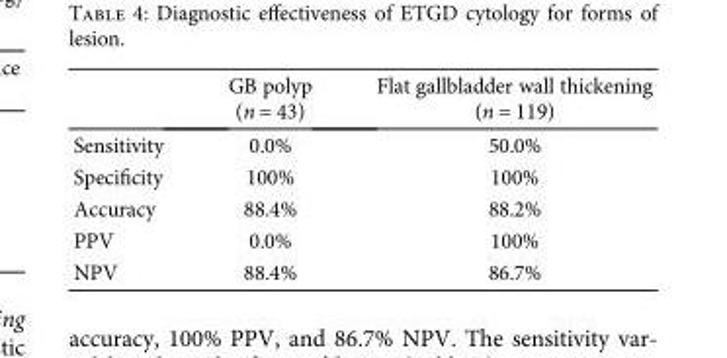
<table><thead><tr><td></td><td>GB polyp (n = 43)</td><td>Flat gallbladder wall thickening (n = 119)</td></tr></thead><tbody><tr><td>Sensitivity</td><td>0.0%</td><td>50.0%</td></tr><tr><td>Specificity</td><td>100%</td><td>100%</td></tr><tr><td>Accuracy</td><td>88.4%</td><td>88.2%</td></tr><tr><td>PPV</td><td>0.0%</td><td>100%</td></tr><tr><td>NPV</td><td>88.4%</td><td>86.7%</td></tr></tbody></table>